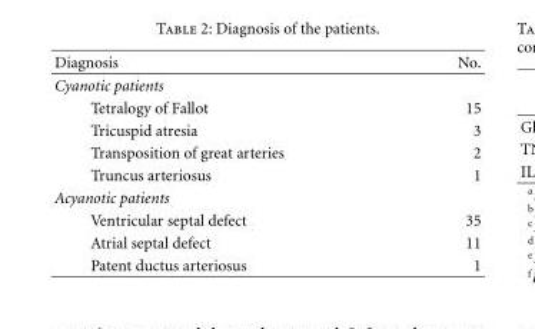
<table><thead><tr><td>Diagnosis</td><td>No.</td></tr></thead><tbody><tr><td colspan="2">Cyanotic patients</td></tr><tr><td>Tetralogy of Fallot</td><td>15</td></tr><tr><td>Tricuspid atresia</td><td>3</td></tr><tr><td>Transposition of great arteries</td><td>2</td></tr><tr><td>Truncus arteriosus</td><td>1</td></tr><tr><td colspan="2">Acyanotic patients</td></tr><tr><td>Ventricular septal defect</td><td>35</td></tr><tr><td>Atrial septal defect</td><td>11</td></tr><tr><td>Patent ductus arteriosus</td><td>1</td></tr></tbody></table>